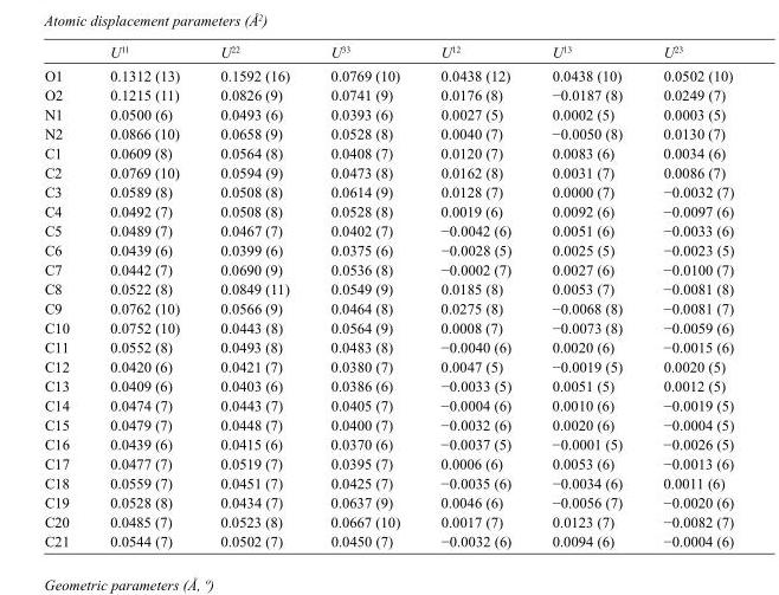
<table><thead><tr><td></td><td>U<sup>11</sup></td><td>U<sup>22</sup></td><td>U<sup>33</sup></td><td>U<sup>12</sup></td><td>U<sup>13</sup></td><td>U<sup>23</sup></td></tr></thead><tbody><tr><td>O1</td><td>0.1312 (13)</td><td>0.1592 (16)</td><td>0.0769 (10)</td><td>0.0438 (12)</td><td>0.0438 (10)</td><td>0.0502 (10)</td></tr><tr><td>O2</td><td>0.1215 (11)</td><td>0.0826 (9)</td><td>0.0741 (9)</td><td>0.0176 (8)</td><td>−0.0187 (8)</td><td>0.0249 (7)</td></tr><tr><td>N1</td><td>0.0500 (6)</td><td>0.0493 (6)</td><td>0.0393 (6)</td><td>0.0027 (5)</td><td>0.0002 (5)</td><td>0.0003 (5)</td></tr><tr><td>N2</td><td>0.0866 (10)</td><td>0.0658 (9)</td><td>0.0528 (8)</td><td>0.0040 (7)</td><td>−0.0050 (8)</td><td>0.0130 (7)</td></tr><tr><td>C1</td><td>0.0609 (8)</td><td>0.0564 (8)</td><td>0.0408 (7)</td><td>0.0120 (7)</td><td>0.0083 (6)</td><td>0.0034 (6)</td></tr><tr><td>C2</td><td>0.0769 (10)</td><td>0.0594 (9)</td><td>0.0473 (8)</td><td>0.0162 (8)</td><td>0.0031 (7)</td><td>0.0086 (7)</td></tr><tr><td>C3</td><td>0.0589 (8)</td><td>0.0508 (8)</td><td>0.0614 (9)</td><td>0.0128 (7)</td><td>0.0000 (7)</td><td>−0.0032 (7)</td></tr><tr><td>C4</td><td>0.0492 (7)</td><td>0.0508 (8)</td><td>0.0528 (8)</td><td>0.0019 (6)</td><td>0.0092 (6)</td><td>−0.0097 (6)</td></tr><tr><td>C5</td><td>0.0489 (7)</td><td>0.0467 (7)</td><td>0.0402 (7)</td><td>−0.0042 (6)</td><td>0.0051 (6)</td><td>−0.0033 (6)</td></tr><tr><td>C6</td><td>0.0439 (6)</td><td>0.0399 (6)</td><td>0.0375 (6)</td><td>−0.0028 (5)</td><td>0.0025 (5)</td><td>−0.0023 (5)</td></tr><tr><td>C7</td><td>0.0442 (7)</td><td>0.0690 (9)</td><td>0.0536 (8)</td><td>−0.0002 (7)</td><td>0.0027 (6)</td><td>−0.0100 (7)</td></tr><tr><td>C8</td><td>0.0522 (8)</td><td>0.0849 (11)</td><td>0.0549 (9)</td><td>0.0185 (8)</td><td>0.0053 (7)</td><td>−0.0081 (8)</td></tr><tr><td>C9</td><td>0.0762 (10)</td><td>0.0566 (9)</td><td>0.0464 (8)</td><td>0.0275 (8)</td><td>−0.0068 (8)</td><td>−0.0081 (7)</td></tr><tr><td>C10</td><td>0.0752 (10)</td><td>0.0443 (8)</td><td>0.0564 (9)</td><td>0.0008 (7)</td><td>−0.0073 (8)</td><td>−0.0059 (6)</td></tr><tr><td>C11</td><td>0.0552 (8)</td><td>0.0493 (8)</td><td>0.0483 (8)</td><td>−0.0040 (6)</td><td>0.0020 (6)</td><td>−0.0015 (6)</td></tr><tr><td>C12</td><td>0.0420 (6)</td><td>0.0421 (7)</td><td>0.0380 (7)</td><td>0.0047 (5)</td><td>−0.0019 (5)</td><td>0.0020 (5)</td></tr><tr><td>C13</td><td>0.0409 (6)</td><td>0.0403 (6)</td><td>0.0386 (6)</td><td>−0.0033 (5)</td><td>0.0051 (5)</td><td>0.0012 (5)</td></tr><tr><td>C14</td><td>0.0474 (7)</td><td>0.0443 (7)</td><td>0.0405 (7)</td><td>−0.0004 (6)</td><td>0.0010 (6)</td><td>−0.0019 (5)</td></tr><tr><td>C15</td><td>0.0479 (7)</td><td>0.0448 (7)</td><td>0.0400 (7)</td><td>−0.0032 (6)</td><td>0.0020 (6)</td><td>−0.0004 (5)</td></tr><tr><td>C16</td><td>0.0439 (6)</td><td>0.0415 (6)</td><td>0.0370 (6)</td><td>−0.0037 (5)</td><td>−0.0001 (5)</td><td>−0.0026 (5)</td></tr><tr><td>C17</td><td>0.0477 (7)</td><td>0.0519 (7)</td><td>0.0395 (7)</td><td>0.0006 (6)</td><td>0.0053 (6)</td><td>−0.0013 (6)</td></tr><tr><td>C18</td><td>0.0559 (7)</td><td>0.0451 (7)</td><td>0.0425 (7)</td><td>−0.0035 (6)</td><td>−0.0034 (6)</td><td>0.0011 (6)</td></tr><tr><td>C19</td><td>0.0528 (8)</td><td>0.0434 (7)</td><td>0.0637 (9)</td><td>0.0046 (6)</td><td>−0.0056 (7)</td><td>−0.0020 (6)</td></tr><tr><td>C20</td><td>0.0485 (7)</td><td>0.0523 (8)</td><td>0.0667 (10)</td><td>0.0017 (7)</td><td>0.0123 (7)</td><td>−0.0082 (7)</td></tr><tr><td>C21</td><td>0.0544 (7)</td><td>0.0502 (7)</td><td>0.0450 (7)</td><td>−0.0032 (6)</td><td>0.0094 (6)</td><td>−0.0004 (6)</td></tr></tbody></table>